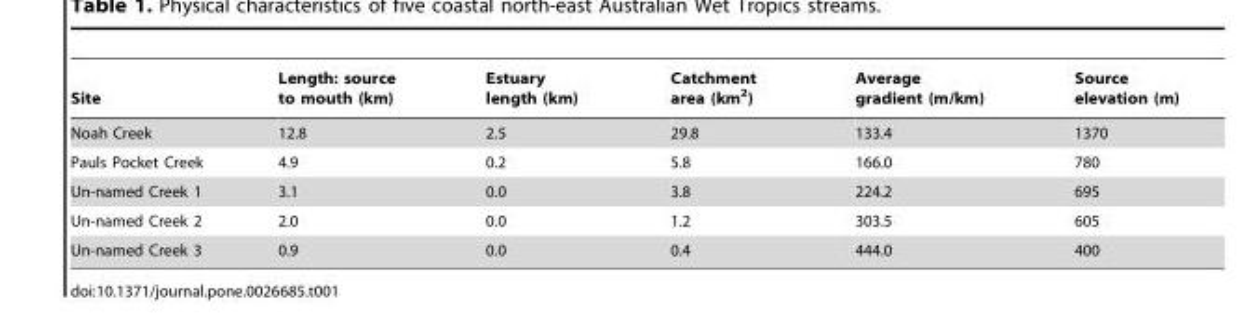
<table><thead><tr><td>Site</td><td>Length: source to mouth (km)</td><td>Estuary length (km)</td><td>Catchment area (km<sup>2</sup>)</td><td>Average gradient (m/km)</td><td>Source elevation (m)</td></tr></thead><tbody><tr><td>Noah Creek</td><td>12.8</td><td>2.5</td><td>29.8</td><td>133.4</td><td>1370</td></tr><tr><td>Pauls Pocket Creek</td><td>4.9</td><td>0.2</td><td>5.8</td><td>166.0</td><td>780</td></tr><tr><td>Un-named Creek 1</td><td>3.1</td><td>0.0</td><td>3.8</td><td>224.2</td><td>695</td></tr><tr><td>Un-named Creek 2</td><td>2.0</td><td>0.0</td><td>1.2</td><td>303.5</td><td>605</td></tr><tr><td>Un-named Creek 3</td><td>0.9</td><td>0.0</td><td>0.4</td><td>444.0</td><td>400</td></tr></tbody></table>